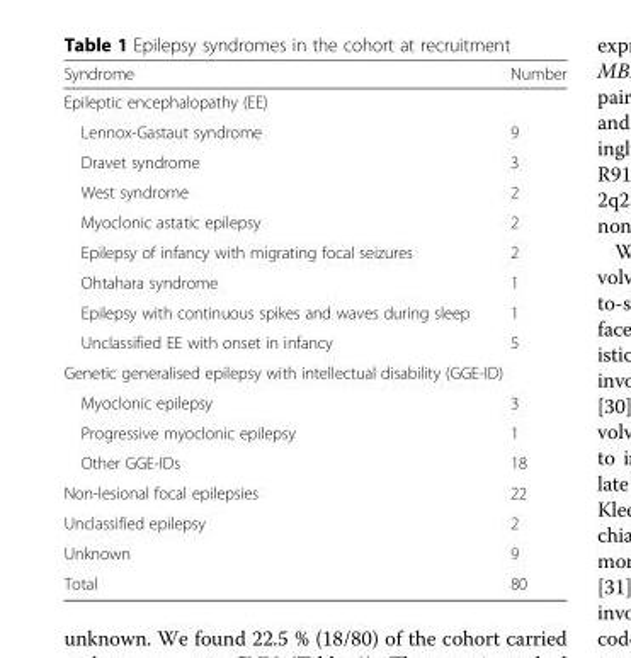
<table><thead><tr><td>Syndrome</td><td>Number</td></tr></thead><tbody><tr><td colspan="2">Epileptic encephalopathy (EE)</td></tr><tr><td>Lennox-Gastaut syndrome</td><td>9</td></tr><tr><td>Dravet syndrome</td><td>3</td></tr><tr><td>West syndrome</td><td>2</td></tr><tr><td>Myoclonic astatic epilepsy</td><td>2</td></tr><tr><td>Epilepsy of infancy with migrating focal seizures</td><td>2</td></tr><tr><td>Ohtahara syndrome</td><td>1</td></tr><tr><td>Epilepsy with continuous spikes and waves during sleep</td><td>1</td></tr><tr><td>Unclassified EE with onset in infancy</td><td>5</td></tr><tr><td colspan="2">Genetic generalised epilepsy with intellectual disability (GGE-ID)</td></tr><tr><td>Myoclonic epilepsy</td><td>3</td></tr><tr><td>Progressive myoclonic epilepsy</td><td>1</td></tr><tr><td>Other GGE-IDs</td><td>18</td></tr><tr><td>Non-lesional focal epilepsies</td><td>22</td></tr><tr><td>Unclassified epilepsy</td><td>2</td></tr><tr><td>Unknown</td><td>9</td></tr><tr><td>Total</td><td>80</td></tr></tbody></table>